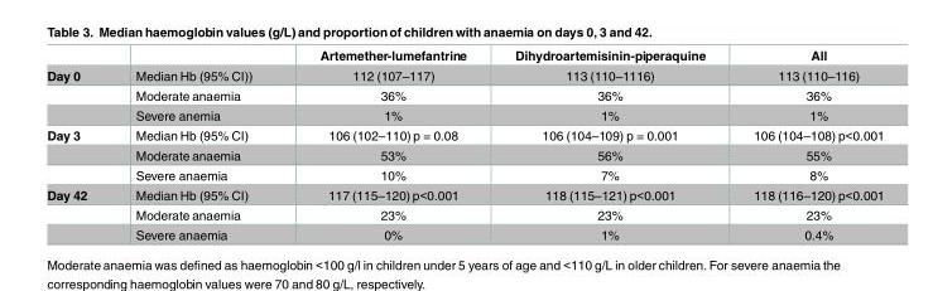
<table><thead><tr><td></td><td></td><td>Artemether-lumefantrine</td><td>Dihydroartemisinin-piperaquine</td><td>All</td></tr></thead><tbody><tr><td rowspan="3">Day 0</td><td>Median Hb (95% CI))</td><td>112 (107–117)</td><td>113 (110–1116)</td><td>113 (110–116)</td></tr><tr><td>Moderate anaemia</td><td>36%</td><td>36%</td><td>36%</td></tr><tr><td>Severe anemia</td><td>1%</td><td>1%</td><td>1%</td></tr><tr><td rowspan="3">Day 3</td><td>Median Hb (95% CI)</td><td>106 (102–110) p = 0.08</td><td>106 (104–109) p = 0.001</td><td>106 (104–108) p&lt;0.001</td></tr><tr><td>Moderate anaemia</td><td>53%</td><td>56%</td><td>55%</td></tr><tr><td>Severe anaemia</td><td>10%</td><td>7%</td><td>8%</td></tr><tr><td rowspan="3">Day 42</td><td>Median Hb (95% CI)</td><td>117 (115–120) p&lt;0.001</td><td>118 (115–121) p&lt;0.001</td><td>118 (116–120) p&lt;0.001</td></tr><tr><td>Moderate anaemia</td><td>23%</td><td>23%</td><td>23%</td></tr><tr><td>Severe anaemia</td><td>0%</td><td>1%</td><td>0.4%</td></tr></tbody></table>